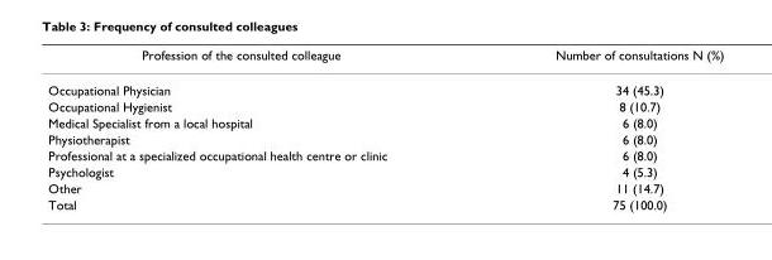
<table><thead><tr><td>Profession of the consulted colleague</td><td>Number of consultations N (%)</td></tr></thead><tbody><tr><td>Occupational Physician</td><td>34 (45.3)</td></tr><tr><td>Occupational Hygienist</td><td>8 (10.7)</td></tr><tr><td>Medical Specialist from a local hospital</td><td>6 (8.0)</td></tr><tr><td>Physiotherapist</td><td>6 (8.0)</td></tr><tr><td>Professional at a specialized occupational health centre or clinic</td><td>6 (8.0)</td></tr><tr><td>Psychologist</td><td>4 (5.3)</td></tr><tr><td>Other</td><td>11 (14.7)</td></tr><tr><td>Total</td><td>75 (100.0)</td></tr></tbody></table>